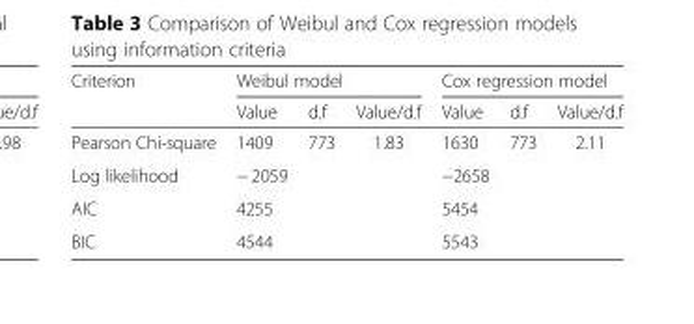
<table><thead><tr><td rowspan="2">Criterion</td><td colspan="3">Weibul model</td><td colspan="3">Cox regression model</td></tr><tr><td>Value</td><td>d.f</td><td>Value/d.f</td><td>Value</td><td>d.f</td><td>Value/d.f</td></tr></thead><tbody><tr><td>Pearson Chi-square</td><td>1409</td><td>773</td><td>1.83</td><td>1630</td><td>773</td><td>2.11</td></tr><tr><td>Log likelihood</td><td>− 2059</td><td></td><td></td><td>−2658</td><td></td><td></td></tr><tr><td>AIC</td><td>4255</td><td></td><td></td><td>5454</td><td></td><td></td></tr><tr><td>BIC</td><td>4544</td><td></td><td></td><td>5543</td><td></td><td></td></tr></tbody></table>